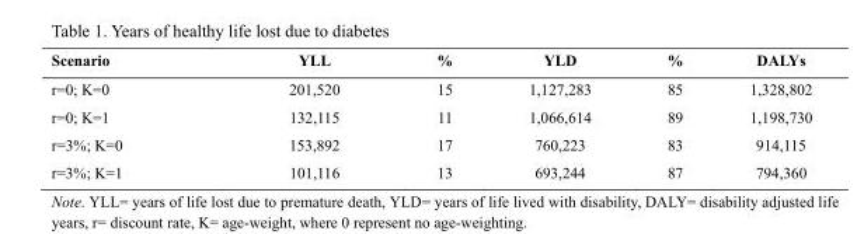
<table><thead><tr><td>Scenario</td><td>YLL</td><td>%</td><td>YLD</td><td>%</td><td>DALYs</td></tr></thead><tbody><tr><td>r=0; K=0</td><td>201,520</td><td>15</td><td>1,127,283</td><td>85</td><td>1,328,802</td></tr><tr><td>r=0; K=1</td><td>132,115</td><td>11</td><td>1,066,614</td><td>89</td><td>1,198,730</td></tr><tr><td>r=3%; K=0</td><td>153,892</td><td>17</td><td>760,223</td><td>83</td><td>914,115</td></tr><tr><td>r=3%; K=1</td><td>101,116</td><td>13</td><td>693,244</td><td>87</td><td>794,360</td></tr></tbody></table>